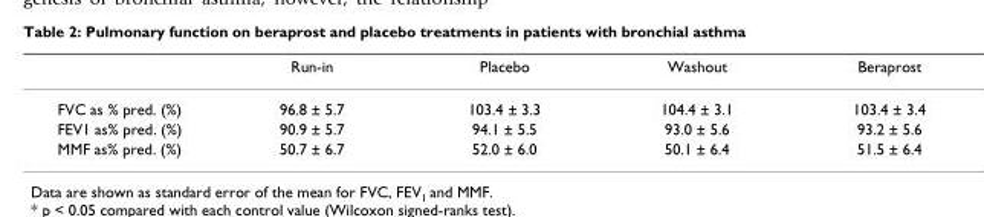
<table><thead><tr><td></td><td>Run-in</td><td>Placebo</td><td>Washout</td><td>Beraprost</td></tr></thead><tbody><tr><td>FVC as % pred. (%)</td><td>96.8 ± 5.7</td><td>103.4 ± 3.3</td><td>104.4 ± 3.1</td><td>103.4 ± 3.4</td></tr><tr><td>FEV1 as% pred. (%)</td><td>90.9 ± 5.7</td><td>94.1 ± 5.5</td><td>93.0 ± 5.6</td><td>93.2 ± 5.6</td></tr><tr><td>MMF as% pred. (%)</td><td>50.7 ± 6.7</td><td>52.0 ± 6.0</td><td>50.1 ± 6.4</td><td>51.5 ± 6.4</td></tr></tbody></table>